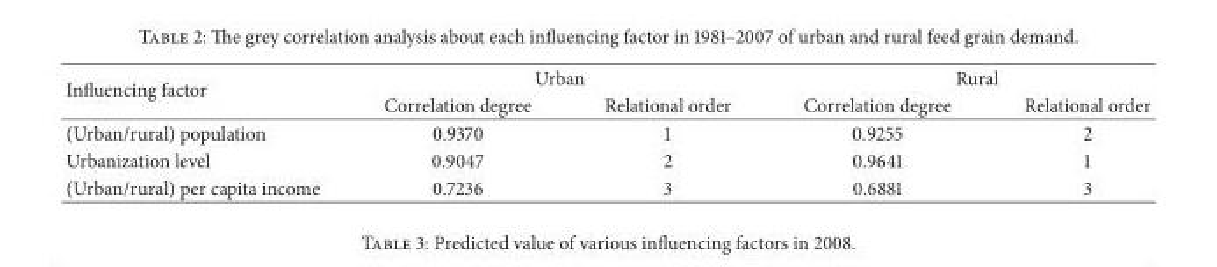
<table><thead><tr><td rowspan="2">Influencing factor</td><td colspan="2">Urban</td><td colspan="2">Rural</td></tr><tr><td>Correlation degree</td><td>Relational order</td><td>Correlation degree</td><td>Relational order</td></tr></thead><tbody><tr><td>(Urban/rural) population</td><td>0.9370</td><td>1</td><td>0.9255</td><td>2</td></tr><tr><td>Urbanization level</td><td>0.9047</td><td>2</td><td>0.9641</td><td>1</td></tr><tr><td>(Urban/rural) per capita income</td><td>0.7236</td><td>3</td><td>0.6881</td><td>3</td></tr></tbody></table>